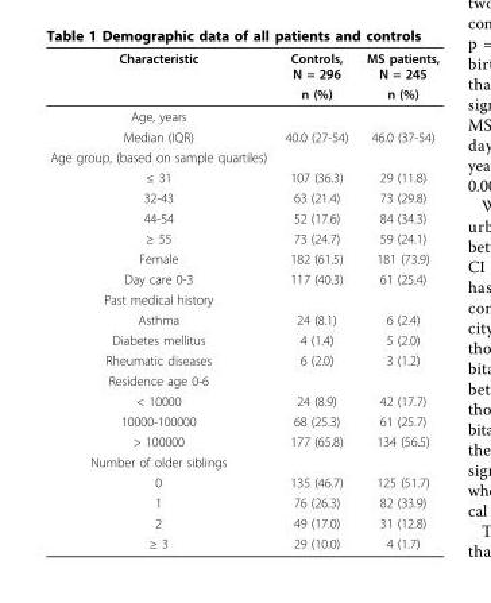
<table><thead><tr><td rowspan="2">Characteristic</td><td rowspan="2">Controls, N = 296 n (%)</td><td rowspan="2">MS patients, N = 245 n (%)</td></tr><tr></tr></thead><tbody><tr><td colspan="3">Age, years</td></tr><tr><td>Median (IQR)</td><td>40.0 (27-54)</td><td>46.0 (37-54)</td></tr><tr><td colspan="3">Age group, (based on sample quartiles)</td></tr><tr><td>≤ 31</td><td>107 (36.3)</td><td>29 (11.8)</td></tr><tr><td>32-43</td><td>63 (21.4)</td><td>73 (29.8)</td></tr><tr><td>44-54</td><td>52 (17.6)</td><td>84 (34.3)</td></tr><tr><td>≥ 55</td><td>73 (24.7)</td><td>59 (24.1)</td></tr><tr><td>Female</td><td>182 (61.5)</td><td>181 (73.9)</td></tr><tr><td>Day care 0-3</td><td>117 (40.3)</td><td>61 (25.4)</td></tr><tr><td colspan="3">Past medical history</td></tr><tr><td>Asthma</td><td>24 (8.1)</td><td>6 (2.4)</td></tr><tr><td>Diabetes mellitus</td><td>4 (1.4)</td><td>5 (2.0)</td></tr><tr><td>Rheumatic diseases</td><td>6 (2.0)</td><td>3 (1.2)</td></tr><tr><td colspan="3">Residence age 0-6</td></tr><tr><td>&lt; 10000</td><td>24 (8.9)</td><td>42 (17.7)</td></tr><tr><td>10000-100000</td><td>68 (25.3)</td><td>61 (25.7)</td></tr><tr><td>&gt; 100000</td><td>177 (65.8)</td><td>134 (56.5)</td></tr><tr><td colspan="3">Number of older siblings</td></tr><tr><td>0</td><td>135 (46.7)</td><td>125 (51.7)</td></tr><tr><td>1</td><td>76 (26.3)</td><td>82 (33.9)</td></tr><tr><td>2</td><td>49 (17.0)</td><td>31 (12.8)</td></tr><tr><td>≥ 3</td><td>29 (10.0)</td><td>4 (1.7)</td></tr></tbody></table>